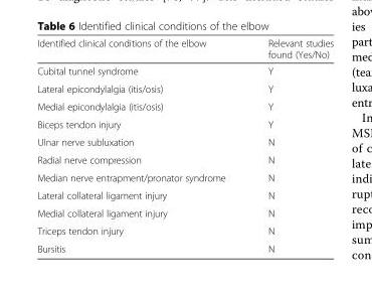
<table><thead><tr><td>Identified clinical conditions of the elbow</td><td>Relevant studies found (Yes/No)</td></tr></thead><tbody><tr><td>Cubital tunnel syndrome</td><td>Y</td></tr><tr><td>Lateral epicondylalgia (itis/osis)</td><td>Y</td></tr><tr><td>Medial epicondylalgia (itis/osis)</td><td>Y</td></tr><tr><td>Biceps tendon injury</td><td>Y</td></tr><tr><td>Ulnar nerve subluxation</td><td>N</td></tr><tr><td>Radial nerve compression</td><td>N</td></tr><tr><td>Median nerve entrapment/pronator syndrome</td><td>N</td></tr><tr><td>Lateral collateral ligament injury</td><td>N</td></tr><tr><td>Medial collateral ligament injury</td><td>N</td></tr><tr><td>Triceps tendon injury</td><td>N</td></tr><tr><td>Bursitis</td><td>N</td></tr></tbody></table>